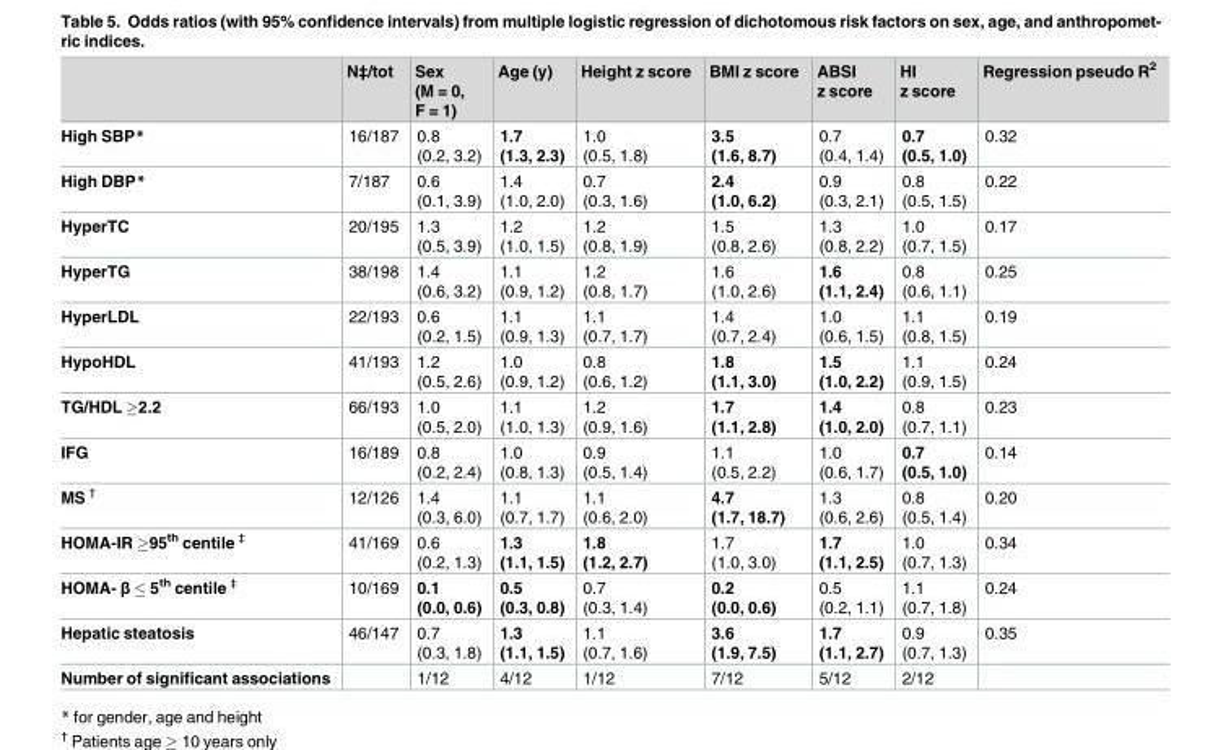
<table><thead><tr><td></td><td>N‡/tot</td><td>Sex (M = 0, F = 1)</td><td>Age (y)</td><td>Height z score</td><td>BMI z score</td><td>ABSI z score</td><td>HI z score</td><td>Regression pseudo R<sup>2</sup></td></tr></thead><tbody><tr><td>High SBP*</td><td>16/187</td><td>0.8 (0.2, 3.2)</td><td>1.7 (1.3, 2.3)</td><td>1.0 (0.5, 1.8)</td><td>3.5 (1.6, 8.7)</td><td>0.7 (0.4, 1.4)</td><td>0.7 (0.5, 1.0)</td><td>0.32</td></tr><tr><td>High DBP*</td><td>7/187</td><td>0.6 (0.1, 3.9)</td><td>1.4 (1.0, 2.0)</td><td>0.7 (0.3, 1.6)</td><td>2.4 (1.0, 6.2)</td><td>0.9 (0.3, 2.1)</td><td>0.8 (0.5, 1.5)</td><td>0.22</td></tr><tr><td>HyperTC</td><td>20/195</td><td>1.3 (0.5, 3.9)</td><td>1.2 (1.0, 1.5)</td><td>1.2 (0.8, 1.9)</td><td>1.5 (0.8, 2.6)</td><td>1.3 (0.8, 2.2)</td><td>1.0 (0.7, 1.5)</td><td>0.17</td></tr><tr><td>HyperTG</td><td>38/198</td><td>1.4 (0.6, 3.2)</td><td>1.1 (0.9, 1.2)</td><td>1.2 (0.8, 1.7)</td><td>1.6 (1.0, 2.6)</td><td>1.6 (1.1, 2.4)</td><td>0.8 (0.6, 1.1)</td><td>0.25</td></tr><tr><td>HyperLDL</td><td>22/193</td><td>0.6 (0.2, 1.5)</td><td>1.1 (0.9, 1.3)</td><td>1.1 (0.7, 1.7)</td><td>1.4 (0.7, 2.4)</td><td>1.0 (0.6, 1.5)</td><td>1.1 (0.8, 1.5)</td><td>0.19</td></tr><tr><td>HypoHDL</td><td>41/193</td><td>1.2 (0.5, 2.6)</td><td>1.0 (0.9, 1.2)</td><td>0.8 (0.6, 1.2)</td><td>1.8 (1.1, 3.0)</td><td>1.5 (1.0, 2.2)</td><td>1.1 (0.9, 1.5)</td><td>0.24</td></tr><tr><td>TG/HDL ≥2.2</td><td>66/193</td><td>1.0 (0.5, 2.0)</td><td>1.1 (1.0, 1.3)</td><td>1.2 (0.9, 1.6)</td><td>1.7 (1.1, 2.8)</td><td>1.4 (1.0, 2.0)</td><td>0.8 (0.7, 1.1)</td><td>0.23</td></tr><tr><td>IFG</td><td>16/189</td><td>0.8 (0.2, 2.4)</td><td>1.0 (0.8, 1.3)</td><td>0.9 (0.5, 1.4)</td><td>1.1 (0.5, 2.2)</td><td>1.0 (0.6, 1.7)</td><td>0.7 (0.5, 1.0)</td><td>0.14</td></tr><tr><td>MS <sup>†</sup></td><td>12/126</td><td>1.4 (0.3, 6.0)</td><td>1.1 (0.7, 1.7)</td><td>1.1 (0.6, 2.0)</td><td>4.7 (1.7, 18.7)</td><td>1.3 (0.6, 2.6)</td><td>0.8 (0.5, 1.4)</td><td>0.20</td></tr><tr><td>HOMA-IR ≥95<sup>th</sup> centile <sup>‡</sup></td><td>41/169</td><td>0.6 (0.2, 1.3)</td><td>1.3 (1.1, 1.5)</td><td>1.8 (1.2, 2.7)</td><td>1.7 (1.0, 3.0)</td><td>1.7 (1.1, 2.5)</td><td>1.0 (0.7, 1.3)</td><td>0.34</td></tr><tr><td>HOMA- β ≤ 5<sup>th</sup> centile <sup>‡</sup></td><td>10/169</td><td>0.1 (0.0, 0.6)</td><td>0.5 (0.3, 0.8)</td><td>0.7 (0.3, 1.4)</td><td>0.2 (0.0, 0.6)</td><td>0.5 (0.2, 1.1)</td><td>1.1 (0.7, 1.8)</td><td>0.24</td></tr><tr><td>Hepatic steatosis</td><td>46/147</td><td>0.7 (0.3, 1.8)</td><td>1.3 (1.1, 1.5)</td><td>1.1 (0.7, 1.6)</td><td>3.6 (1.9, 7.5)</td><td>1.7 (1.1, 2.7)</td><td>0.9 (0.7, 1.3)</td><td>0.35</td></tr><tr><td>Number of significant associations</td><td></td><td>1/12</td><td>4/12</td><td>1/12</td><td>7/12</td><td>5/12</td><td>2/12</td><td></td></tr></tbody></table>